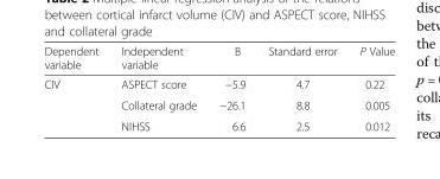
<table><thead><tr><td>Dependent variable</td><td>Independent variable</td><td>B</td><td>Standard error</td><td>P Value</td></tr></thead><tbody><tr><td rowspan="3">CIV</td><td>ASPECT score</td><td>−5.9</td><td>4.7</td><td>0.22</td></tr><tr><td>Collateral grade</td><td>−26.1</td><td>8.8</td><td>0.005</td></tr><tr><td>NIHSS</td><td>6.6</td><td>2.5</td><td>0.012</td></tr></tbody></table>